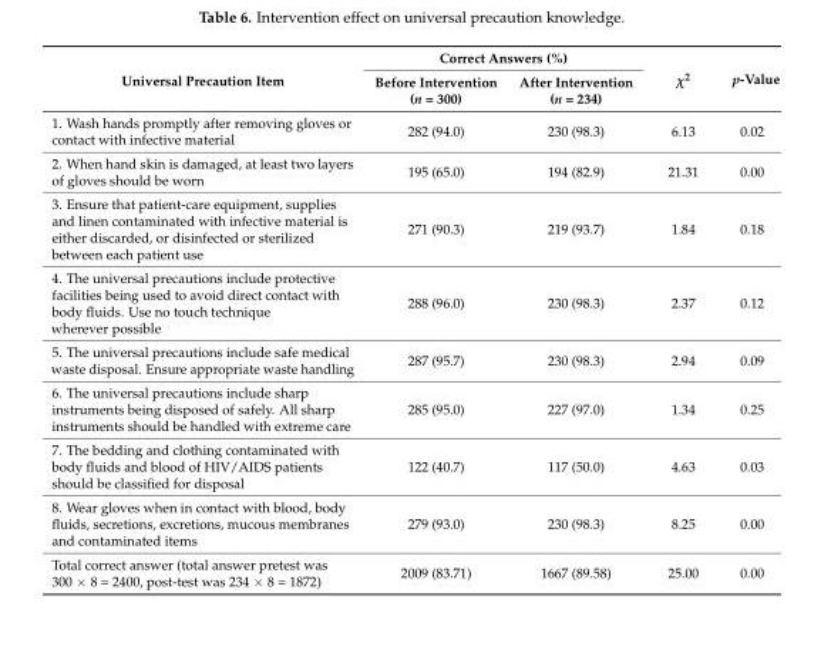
<table><thead><tr><td rowspan="2">Universal Precaution Item</td><td colspan="2">Correct Answers (%)</td><td rowspan="2">χ<sup>2</sup></td><td rowspan="2">p-Value</td></tr><tr><td>Before Intervention (n = 300)</td><td>After Intervention (n = 234)</td></tr></thead><tbody><tr><td>1. Wash hands promptly after removing gloves or contact with infective material</td><td>282 (94.0)</td><td>230 (98.3)</td><td>6.13</td><td>0.02</td></tr><tr><td>2. When hand skin is damaged, at least two layers of gloves should be worn</td><td>195 (65.0)</td><td>194 (82.9)</td><td>21.31</td><td>0.00</td></tr><tr><td>3. Ensure that patient-care equipment, supplies and linen contaminated with infective material is either discarded, or disinfected or sterilized between each patient use</td><td>271 (90.3)</td><td>219 (93.7)</td><td>1.84</td><td>0.18</td></tr><tr><td>4. The universal precautions include protective facilities being used to avoid direct contact with body fluids. Use no touch technique wherever possible</td><td>288 (96.0)</td><td>230 (98.3)</td><td>2.37</td><td>0.12</td></tr><tr><td>5. The universal precautions include safe medical waste disposal. Ensure appropriate waste handling</td><td>287 (95.7)</td><td>230 (98.3)</td><td>2.94</td><td>0.09</td></tr><tr><td>6. The universal precautions include sharp instruments being disposed of safely. All sharp instruments should be handled with extreme care</td><td>285 (95.0)</td><td>227 (97.0)</td><td>1.34</td><td>0.25</td></tr><tr><td>7. The bedding and clothing contaminated with body fluids and blood of HIV/AIDS patients should be classified for disposal</td><td>122 (40.7)</td><td>117 (50.0)</td><td>4.63</td><td>0.03</td></tr><tr><td>8. Wear gloves when in contact with blood, body fluids, secretions, excretions, mucous membranes and contaminated items</td><td>279 (93.0)</td><td>230 (98.3)</td><td>8.25</td><td>0.00</td></tr><tr><td>Total correct answer (total answer pretest was 300 × 8 = 2400, post-test was 234 × 8 = 1872)</td><td>2009 (83.71)</td><td>1667 (89.58)</td><td>25.00</td><td>0.00</td></tr></tbody></table>